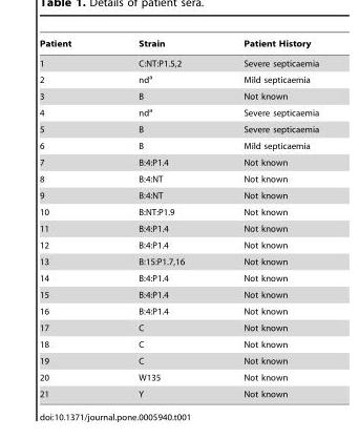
<table><thead><tr><td>Patient</td><td>Strain</td><td>Patient History</td></tr></thead><tbody><tr><td>1</td><td>C:NT:P1.5,2</td><td>Severe septicaemia</td></tr><tr><td>2</td><td>nd<sup>a</sup></td><td>Mild septicaemia</td></tr><tr><td>3</td><td>B</td><td>Not known</td></tr><tr><td>4</td><td>nd<sup>a</sup></td><td>Severe septicaemia</td></tr><tr><td>5</td><td>B</td><td>Severe septicaemia</td></tr><tr><td>6</td><td>B</td><td>Mild septicaemia</td></tr><tr><td>7</td><td>B:4:P1.4</td><td>Not known</td></tr><tr><td>8</td><td>B:4:NT</td><td>Not known</td></tr><tr><td>9</td><td>B:4:NT</td><td>Not known</td></tr><tr><td>10</td><td>B:NT:P1.9</td><td>Not known</td></tr><tr><td>11</td><td>B:4:P1.4</td><td>Not known</td></tr><tr><td>12</td><td>B:4:P1.4</td><td>Not known</td></tr><tr><td>13</td><td>B:15:P1.7,16</td><td>Not known</td></tr><tr><td>14</td><td>B:4:P1.4</td><td>Not known</td></tr><tr><td>15</td><td>B:4:P1.4</td><td>Not known</td></tr><tr><td>16</td><td>B:4:P1.4</td><td>Not known</td></tr><tr><td>17</td><td>C</td><td>Not known</td></tr><tr><td>18</td><td>C</td><td>Not known</td></tr><tr><td>19</td><td>C</td><td>Not known</td></tr><tr><td>20</td><td>W135</td><td>Not known</td></tr><tr><td>21</td><td>Y</td><td>Not known</td></tr></tbody></table>